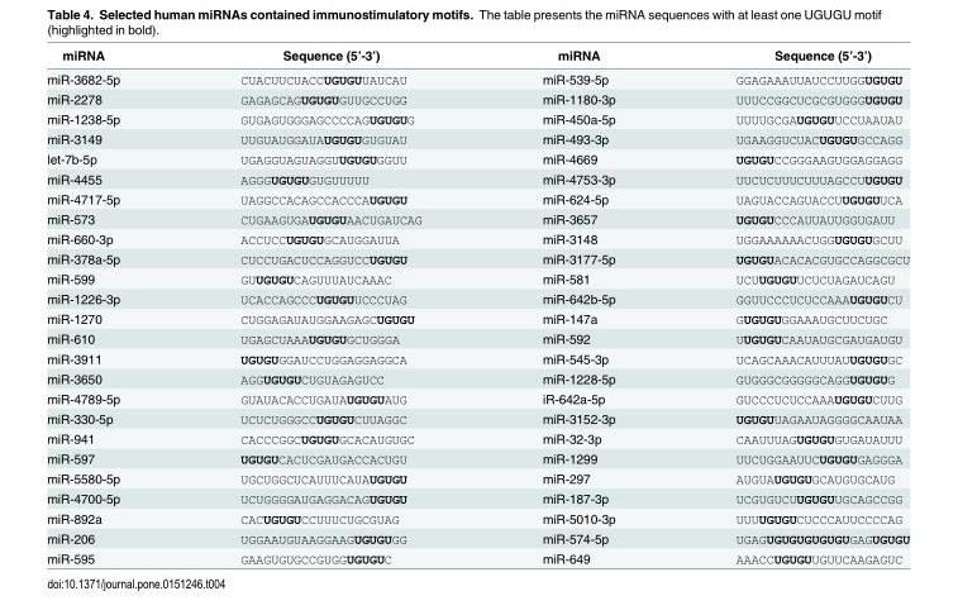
<table><thead><tr><td>miRNA</td><td>Sequence (5’-3’)</td><td>miRNA</td><td>Sequence (5’-3’)</td></tr></thead><tbody><tr><td>miR-3682-5p</td><td>CUACUUCUACCUGUGUUAUCAU</td><td>miR-539-5p</td><td>GGAGAAAUUAUCCUUGGUGUGU</td></tr><tr><td>miR-2278</td><td>GAGAGCAGUGUGUGUUGCCUGG</td><td>miR-1180-3p</td><td>UUUCCGGCUCGCGUGGGUGUGU</td></tr><tr><td>miR-1238-5p</td><td>GUGAGUGGGAGCCCCAGUGUGUG</td><td>miR-450a-5p</td><td>UUUUGCGAUGUGUUCCUAAUAU</td></tr><tr><td>miR-3149</td><td>UUGUAUGGAUAUGUGUGUGUAU</td><td>miR-493-3p</td><td>UGAAGGUCUACUGUGUGCCAGG</td></tr><tr><td>let-7b-5p</td><td>UGAGGUAGUAGGUUGUGUGGUU</td><td>miR-4669</td><td>UGUGUCCGGGAAGUGGAGGAGG</td></tr><tr><td>miR-4455</td><td>AGGGUGUGUGUGUUUUU</td><td>miR-4753-3p</td><td>UUCUCUUUCUUUAGCCUUGUGU</td></tr><tr><td>miR-4717-5p</td><td>UAGGCCACAGCCACCCAUGUGU</td><td>miR-624-5p</td><td>UAGUACCAGUACCUUGUGUUCA</td></tr><tr><td>miR-573</td><td>CUGAAGUGAUGUGUAACUGAUCAG</td><td>miR-3657</td><td>UGUGUCCCAUUAUUGGUGAUU</td></tr><tr><td>miR-660-3p</td><td>ACCUCCUGUGUGCAUGGAUUA</td><td>miR-3148</td><td>UGGAAAAAACUGGUGUGUGCUU</td></tr><tr><td>miR-378a-5p</td><td>CUCCUGACUCCAGGUCCUGUGU</td><td>miR-3177-5p</td><td>UGUGUACACACGUGCCAGGCGCU</td></tr><tr><td>miR-599</td><td>GUUGUGUCAGUUUAUCAAAC</td><td>miR-581</td><td>UCUUGUGUUCUCUAGAUCAGU</td></tr><tr><td>miR-1226-3p</td><td>UCACCAGCCCUGUGUUCCCUAG</td><td>miR-642b-5p</td><td>GGUUCCCUCUCCAAAUGUGUCU</td></tr><tr><td>miR-1270</td><td>CUGGAGAUAUGGAAGAGCUGUGU</td><td>miR-147a</td><td>GUGUGUGGAAAUGCUUCUGC</td></tr><tr><td>miR-610</td><td>UGAGCUAAAUGUGUGCUGGGA</td><td>miR-592</td><td>UUGUGUCAAUAUGCGAUGAUGU</td></tr><tr><td>miR-3911</td><td>UGUGUGGAUCCUGGAGGAGGCA</td><td>miR-545-3p</td><td>UCAGCAAACAUUUAUUGUGUGC</td></tr><tr><td>miR-3650</td><td>AGGUGUGUCUGUAGAGUCC</td><td>miR-1228-5p</td><td>GUGGGCGGGGGCAGGUGUGUG</td></tr><tr><td>miR-4789-5p</td><td>GUAUACACCUGAUAUGUGUAUG</td><td>iR-642a-5p</td><td>GUCCCUCUCCAAAUGUGUCUUG</td></tr><tr><td>miR-330-5p</td><td>UCUCUGGGCCUGUGUCUUAGGC</td><td>miR-3152-3p</td><td>UGUGUUAGAAUAGGGGCAAUAA</td></tr><tr><td>miR-941</td><td>CACCCGGCUGUGUGCACAUGUGC</td><td>miR-32-3p</td><td>CAAUUUAGUGUGUGUGAUAUUU</td></tr><tr><td>miR-597</td><td>UGUGUCACUCGAUGACCACUGU</td><td>miR-1299</td><td>UUCUGGAAUUCUGUGUGAGGGA</td></tr><tr><td>miR-5580-5p</td><td>UGCUGGCUCAUUUCAUAUGUGU</td><td>miR-297</td><td>AUGUAUGUGUGCAUGUGCAUG</td></tr><tr><td>miR-4700-5p</td><td>UCUGGGGAUGAGGACAGUGUGU</td><td>miR-187-3p</td><td>UCGUGUCUUGUGUUGCAGCCGG</td></tr><tr><td>miR-892a</td><td>CACUGUGUCCUUUCUGCGUAG</td><td>miR-5010-3p</td><td>UUUUGUGUCUCCCAUUCCCCAG</td></tr><tr><td>miR-206</td><td>UGGAAUGUAAGGAAGUGUGUGG</td><td>miR-574-5p</td><td>UGAGUGUGUGUGUGUGAGUGUGU</td></tr><tr><td>miR-595</td><td>GAAGUGUGCCGUGGUGUGUC</td><td>miR-649</td><td>AAACCUGUGUUGUUCAAGAGUC</td></tr></tbody></table>